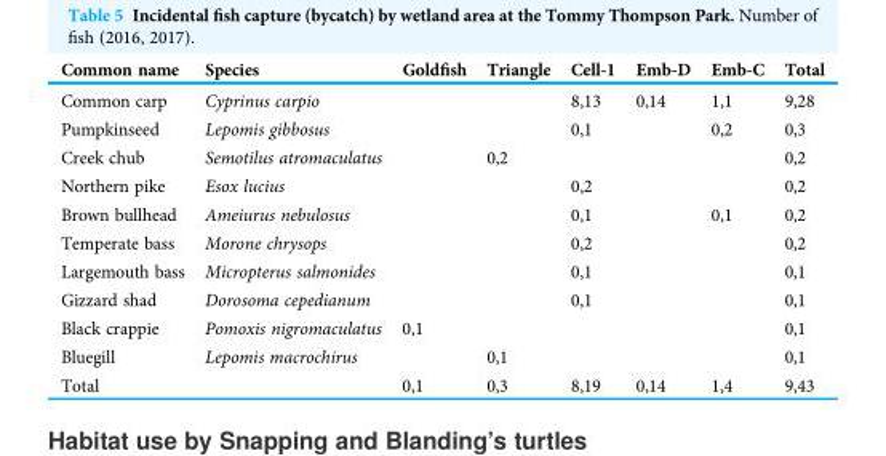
<table><thead><tr><td>Common name</td><td>Species</td><td>Goldfish</td><td>Triangle</td><td>Cell-1</td><td>Emb-D</td><td>Emb-C</td><td>Total</td></tr></thead><tbody><tr><td>Common carp</td><td>Cyprinus carpio</td><td></td><td></td><td>8,13</td><td>0,14</td><td>1,1</td><td>9,28</td></tr><tr><td>Pumpkinseed</td><td>Lepomis gibbosus</td><td></td><td></td><td>0,1</td><td></td><td>0,2</td><td>0,3</td></tr><tr><td>Creek chub</td><td>Semotilus atromaculatus</td><td></td><td>0,2</td><td></td><td></td><td></td><td>0,2</td></tr><tr><td>Northern pike</td><td>Esox lucius</td><td></td><td></td><td>0,2</td><td></td><td></td><td>0,2</td></tr><tr><td>Brown bullhead</td><td>Ameiurus nebulosus</td><td></td><td></td><td>0,1</td><td></td><td>0,1</td><td>0,2</td></tr><tr><td>Temperate bass</td><td>Morone chrysops</td><td></td><td></td><td>0,2</td><td></td><td></td><td>0,2</td></tr><tr><td>Largemouth bass</td><td>Micropterus salmonides</td><td></td><td></td><td>0,1</td><td></td><td></td><td>0,1</td></tr><tr><td>Gizzard shad</td><td>Dorosoma cepedianum</td><td></td><td></td><td>0,1</td><td></td><td></td><td>0,1</td></tr><tr><td>Black crappie</td><td>Pomoxis nigromaculatus</td><td>0,1</td><td></td><td></td><td></td><td></td><td>0,1</td></tr><tr><td>Bluegill</td><td>Lepomis macrochirus</td><td></td><td>0,1</td><td></td><td></td><td></td><td>0,1</td></tr><tr><td>Total</td><td></td><td>0,1</td><td>0,3</td><td>8,19</td><td>0,14</td><td>1,4</td><td>9,43</td></tr></tbody></table>